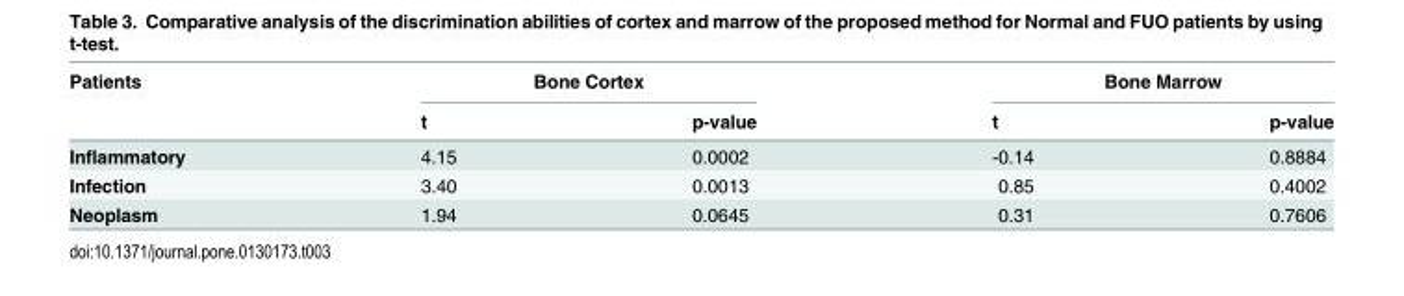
<table><thead><tr><td rowspan="2">Patients</td><td colspan="2">Bone Cortex</td><td colspan="2">Bone Marrow</td></tr><tr><td>t</td><td>p-value</td><td>t</td><td>p-value</td></tr></thead><tbody><tr><td>Inflammatory</td><td>4.15</td><td>0.0002</td><td>-0.14</td><td>0.8884</td></tr><tr><td>Infection</td><td>3.40</td><td>0.0013</td><td>0.85</td><td>0.4002</td></tr><tr><td>Neoplasm</td><td>1.94</td><td>0.0645</td><td>0.31</td><td>0.7606</td></tr></tbody></table>